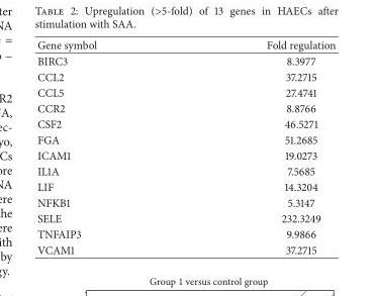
<table><thead><tr><td>Gene symbol</td><td>Fold regulation</td></tr></thead><tbody><tr><td>BIRC3</td><td>8.3977</td></tr><tr><td>CCL2</td><td>37.2715</td></tr><tr><td>CCL5</td><td>27.4741</td></tr><tr><td>CCR2</td><td>8.8766</td></tr><tr><td>CSF2</td><td>46.5271</td></tr><tr><td>FGA</td><td>51.2685</td></tr><tr><td>ICAM1</td><td>19.0273</td></tr><tr><td>IL1A</td><td>7.5685</td></tr><tr><td>LIF</td><td>14.3204</td></tr><tr><td>NFKB1</td><td>5.3147</td></tr><tr><td>SELE</td><td>232.3249</td></tr><tr><td>TNFAIP3</td><td>9.9866</td></tr><tr><td>VCAM1</td><td>37.2715</td></tr></tbody></table>